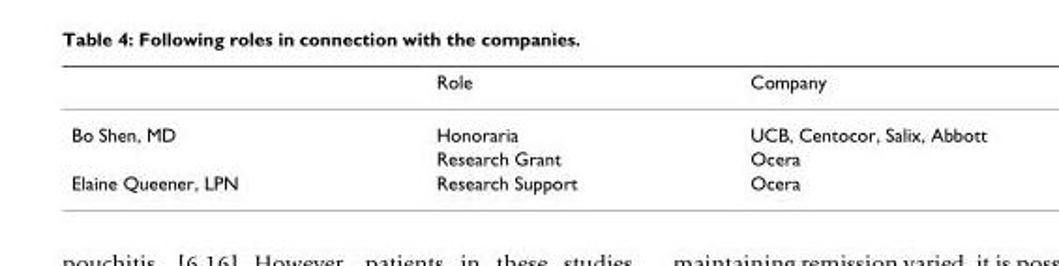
<table><thead><tr><td></td><td>Role</td><td>Company</td></tr></thead><tbody><tr><td rowspan="2">Bo Shen, MD</td><td>Honoraria</td><td>UCB, Centocor, Salix, Abbott</td></tr><tr><td>Research Grant</td><td>Ocera</td></tr><tr><td>Elaine Queener, LPN</td><td>Research Support</td><td>Ocera</td></tr></tbody></table>